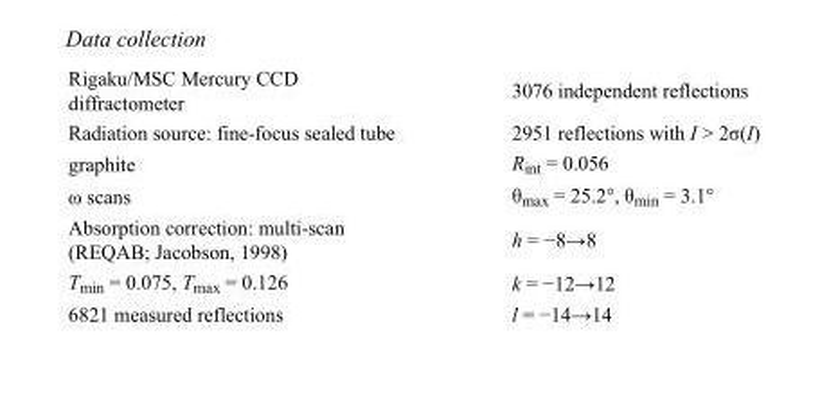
<table><tbody><tr><td>Rigaku/MSC Mercury CCD diffractometer</td><td>3076 independent reflections</td></tr><tr><td>Radiation source: fine-focus sealed tube</td><td>2951 reflections with I &gt; 2σ(I)</td></tr><tr><td>graphite</td><td>R<sub>int</sub> = 0.056</td></tr><tr><td>ω scans</td><td>θ<sub>max</sub> = 25.2°, θ<sub>min</sub> = 3.1°</td></tr><tr><td>Absorption correction: multi-scan (REQAB; Jacobson, 1998)</td><td>h = −8→8</td></tr><tr><td>T<sub>min</sub> = 0.075, T<sub>max</sub> = 0.126</td><td>k = −12→12</td></tr><tr><td>6821 measured reflections</td><td>l = −14→14</td></tr></tbody></table>